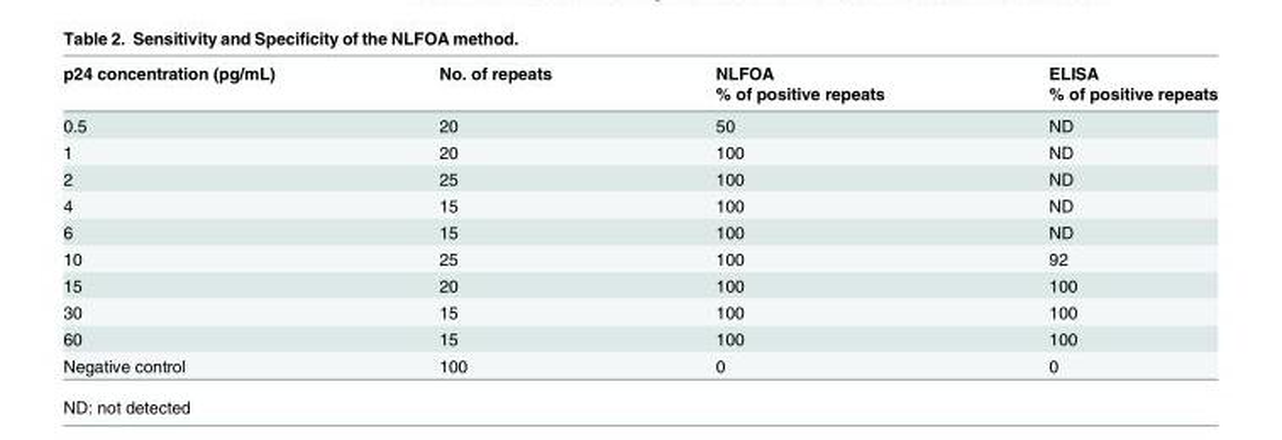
<table><thead><tr><td rowspan="2">p24 concentration (pg/mL)</td><td rowspan="2">No. of repeats</td><td rowspan="2">NLFOA % of positive repeats</td><td rowspan="2">ELISA % of positive repeats</td></tr><tr></tr></thead><tbody><tr><td>0.5</td><td>20</td><td>50</td><td>ND</td></tr><tr><td>1</td><td>20</td><td>100</td><td>ND</td></tr><tr><td>2</td><td>25</td><td>100</td><td>ND</td></tr><tr><td>4</td><td>15</td><td>100</td><td>ND</td></tr><tr><td>6</td><td>15</td><td>100</td><td>ND</td></tr><tr><td>10</td><td>25</td><td>100</td><td>92</td></tr><tr><td>15</td><td>20</td><td>100</td><td>100</td></tr><tr><td>30</td><td>15</td><td>100</td><td>100</td></tr><tr><td>60</td><td>15</td><td>100</td><td>100</td></tr><tr><td>Negative control</td><td>100</td><td>0</td><td>0</td></tr></tbody></table>